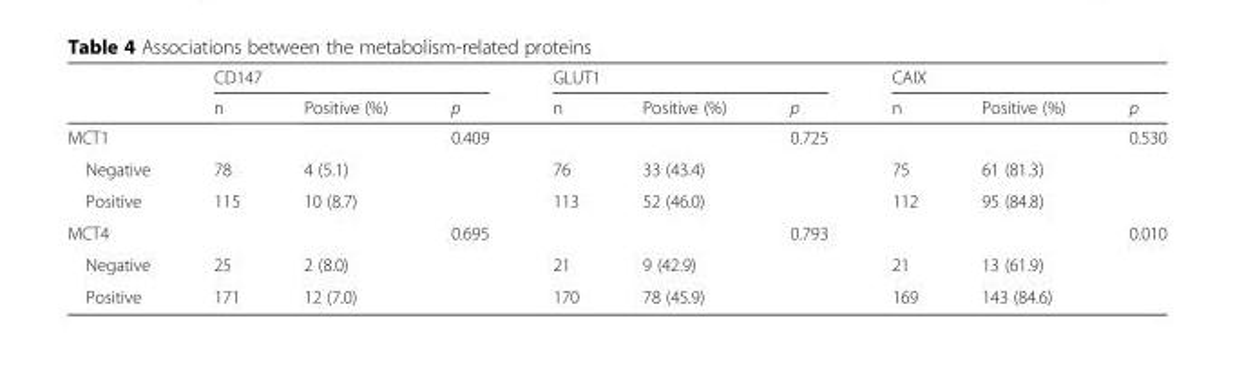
<table><thead><tr><td rowspan="2"></td><td colspan="3">CD147</td><td colspan="3">GLUT1</td><td colspan="3">CAIX</td></tr><tr><td>n</td><td>Positive (%)</td><td>p</td><td>n</td><td>Positive (%)</td><td>p</td><td>n</td><td>Positive (%)</td><td>p</td></tr></thead><tbody><tr><td>MCT1</td><td></td><td></td><td>0.409</td><td></td><td></td><td>0.725</td><td></td><td></td><td>0.530</td></tr><tr><td>Negative</td><td>78</td><td>4 (5.1)</td><td></td><td>76</td><td>33 (43.4)</td><td></td><td>75</td><td>61 (81.3)</td><td></td></tr><tr><td>Positive</td><td>115</td><td>10 (8.7)</td><td></td><td>113</td><td>52 (46.0)</td><td></td><td>112</td><td>95 (84.8)</td><td></td></tr><tr><td>MCT4</td><td></td><td></td><td>0.695</td><td></td><td></td><td>0.793</td><td></td><td></td><td>0.010</td></tr><tr><td>Negative</td><td>25</td><td>2 (8.0)</td><td></td><td>21</td><td>9 (42.9)</td><td></td><td>21</td><td>13 (61.9)</td><td></td></tr><tr><td>Positive</td><td>171</td><td>12 (7.0)</td><td></td><td>170</td><td>78 (45.9)</td><td></td><td>169</td><td>143 (84.6)</td><td></td></tr></tbody></table>